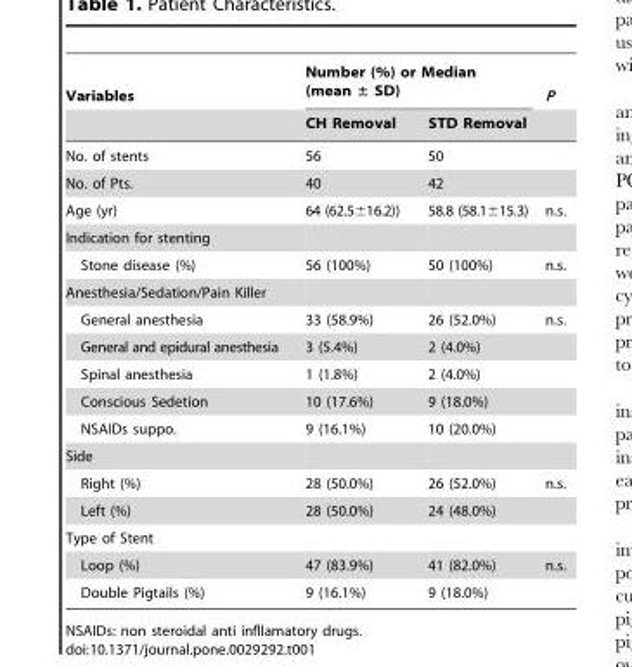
<table><thead><tr><td rowspan="2">Variables</td><td colspan="2">Number (%) or Median (mean ± SD)</td><td rowspan="2">P</td></tr><tr><td>CH Removal</td><td>STD Removal</td></tr></thead><tbody><tr><td>No. of stents</td><td>56</td><td>50</td><td></td></tr><tr><td>No. of Pts.</td><td>40</td><td>42</td><td></td></tr><tr><td>Age (yr)</td><td>64 (62.5±16.2))</td><td>58.8 (58.1±15.3)</td><td>n.s.</td></tr><tr><td colspan="4">Indication for stenting</td></tr><tr><td>Stone disease (%)</td><td>56 (100%)</td><td>50 (100%)</td><td>n.s.</td></tr><tr><td colspan="4">Anesthesia/Sedation/Pain Killer</td></tr><tr><td>General anesthesia</td><td>33 (58.9%)</td><td>26 (52.0%)</td><td>n.s.</td></tr><tr><td>General and epidural anesthesia</td><td>3 (5.4%)</td><td>2 (4.0%)</td><td></td></tr><tr><td>Spinal anesthesia</td><td>1 (1.8%)</td><td>2 (4.0%)</td><td></td></tr><tr><td>Conscious Sedetion</td><td>10 (17.6%)</td><td>9 (18.0%)</td><td></td></tr><tr><td>NSAIDs suppo.</td><td>9 (16.1%)</td><td>10 (20.0%)</td><td></td></tr><tr><td colspan="4">Side</td></tr><tr><td>Right (%)</td><td>28 (50.0%)</td><td>26 (52.0%)</td><td>n.s.</td></tr><tr><td>Left (%)</td><td>28 (50.0%)</td><td>24 (48.0%)</td><td></td></tr><tr><td colspan="4">Type of Stent</td></tr><tr><td>Loop (%)</td><td>47 (83.9%)</td><td>41 (82.0%)</td><td>n.s.</td></tr><tr><td>Double Pigtails (%)</td><td>9 (16.1%)</td><td>9 (18.0%)</td><td></td></tr></tbody></table>